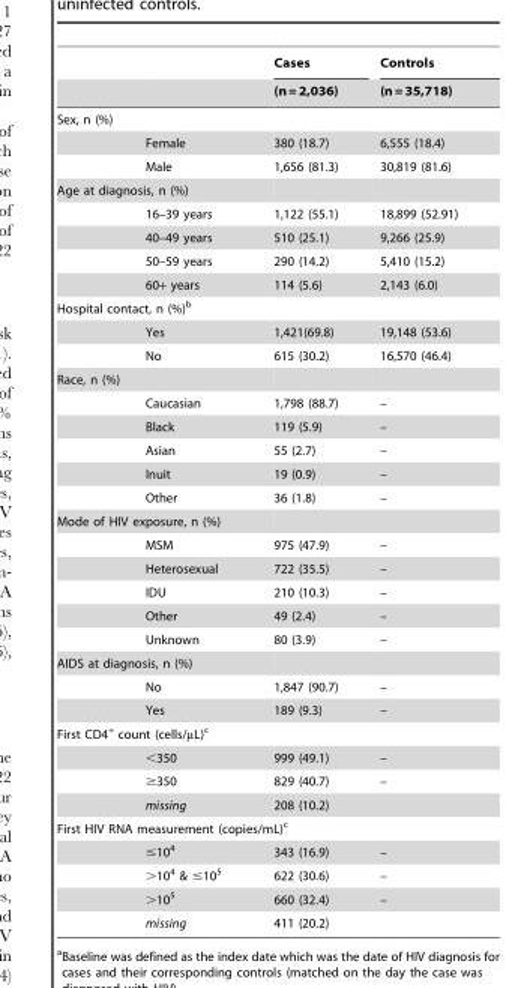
<table><thead><tr><td rowspan="2"></td><td rowspan="2"></td><td rowspan="2">Cases (n = 2,036)</td><td rowspan="2">Controls (n = 35,718)</td></tr><tr></tr></thead><tbody><tr><td colspan="4">Sex, n (%)</td></tr><tr><td></td><td>Female</td><td>380 (18.7)</td><td>6,555 (18.4)</td></tr><tr><td></td><td>Male</td><td>1,656 (81.3)</td><td>30,819 (81.6)</td></tr><tr><td colspan="4">Age at diagnosis, n (%)</td></tr><tr><td></td><td>16–39 years</td><td>1,122 (55.1)</td><td>18,899 (52.91)</td></tr><tr><td></td><td>40–49 years</td><td>510 (25.1)</td><td>9,266 (25.9)</td></tr><tr><td></td><td>50–59 years</td><td>290 (14.2)</td><td>5,410 (15.2)</td></tr><tr><td></td><td>60+ years</td><td>114 (5.6)</td><td>2,143 (6.0)</td></tr><tr><td colspan="4">Hospital contact, n (%)<sup>b</sup></td></tr><tr><td></td><td>Yes</td><td>1,421(69.8)</td><td>19,148 (53.6)</td></tr><tr><td></td><td>No</td><td>615 (30.2)</td><td>16,570 (46.4)</td></tr><tr><td colspan="4">Race, n (%)</td></tr><tr><td></td><td>Caucasian</td><td>1,798 (88.7)</td><td>–</td></tr><tr><td></td><td>Black</td><td>119 (5.9)</td><td>–</td></tr><tr><td></td><td>Asian</td><td>55 (2.7)</td><td>–</td></tr><tr><td></td><td>Inuit</td><td>19 (0.9)</td><td>–</td></tr><tr><td></td><td>Other</td><td>36 (1.8)</td><td>–</td></tr><tr><td colspan="4">Mode of HIV exposure, n (%)</td></tr><tr><td></td><td>MSM</td><td>975 (47.9)</td><td>–</td></tr><tr><td></td><td>Heterosexual</td><td>722 (35.5)</td><td>–</td></tr><tr><td></td><td>IDU</td><td>210 (10.3)</td><td>–</td></tr><tr><td></td><td>Other</td><td>49 (2.4)</td><td>–</td></tr><tr><td></td><td>Unknown</td><td>80 (3.9)</td><td>–</td></tr><tr><td colspan="4">AIDS at diagnosis, n (%)</td></tr><tr><td></td><td>No</td><td>1,847 (90.7)</td><td>–</td></tr><tr><td></td><td>Yes</td><td>189 (9.3)</td><td>–</td></tr><tr><td colspan="4">First CD4<sup>+</sup> count (cells/µL)<sup>c</sup></td></tr><tr><td></td><td>&lt;350</td><td>999 (49.1)</td><td>–</td></tr><tr><td></td><td>≥350</td><td>829 (40.7)</td><td>–</td></tr><tr><td></td><td>missing</td><td>208 (10.2)</td><td></td></tr><tr><td colspan="4">First HIV RNA measurement (copies/mL)<sup>c</sup></td></tr><tr><td></td><td>≤10<sup>4</sup></td><td>343 (16.9)</td><td>–</td></tr><tr><td></td><td>&gt;10<sup>4</sup> &amp; ≤10<sup>5</sup></td><td>622 (30.6)</td><td>–</td></tr><tr><td></td><td>&gt;10<sup>5</sup></td><td>660 (32.4)</td><td>–</td></tr><tr><td></td><td>missing</td><td>411 (20.2)</td><td></td></tr></tbody></table>